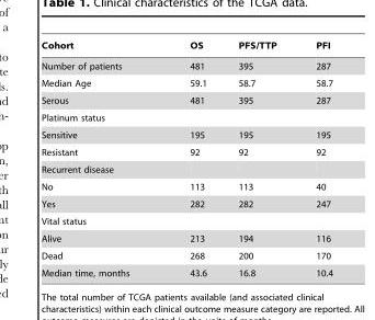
<table><thead><tr><td>Cohort</td><td>OS</td><td>PFS/TTP</td><td>PFI</td></tr></thead><tbody><tr><td>Number of patients</td><td>481</td><td>395</td><td>287</td></tr><tr><td>Median Age</td><td>59.1</td><td>58.7</td><td>58.7</td></tr><tr><td>Serous</td><td>481</td><td>395</td><td>287</td></tr><tr><td colspan="4">Platinum status</td></tr><tr><td>Sensitive</td><td>195</td><td>195</td><td>195</td></tr><tr><td>Resistant</td><td>92</td><td>92</td><td>92</td></tr><tr><td colspan="4">Recurrent disease</td></tr><tr><td>No</td><td>113</td><td>113</td><td>40</td></tr><tr><td>Yes</td><td>282</td><td>282</td><td>247</td></tr><tr><td colspan="4">Vital status</td></tr><tr><td>Alive</td><td>213</td><td>194</td><td>116</td></tr><tr><td>Dead</td><td>268</td><td>200</td><td>170</td></tr><tr><td>Median time, months</td><td>43.6</td><td>16.8</td><td>10.4</td></tr></tbody></table>